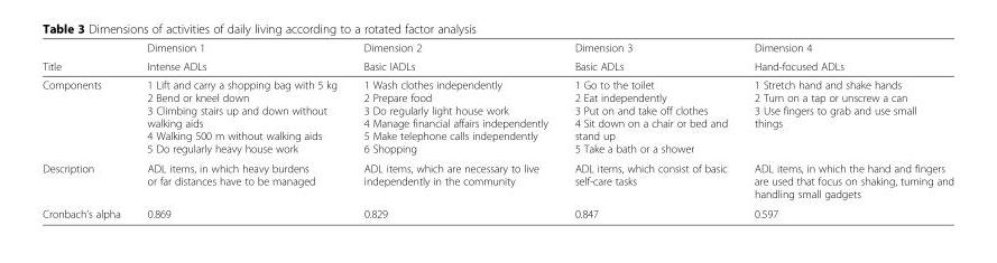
<table><thead><tr><td rowspan="2">Title</td><td rowspan="2">Dimension 1 Intense ADLs</td><td rowspan="2">Dimension 2 Basic IADLs</td><td rowspan="2">Dimension 3 Basic ADLs</td><td rowspan="2">Dimension 4 Hand-focused ADLs</td></tr><tr></tr></thead><tbody><tr><td>Components</td><td>1 Lift and carry a shopping bag with 5 kg 2 Bend or kneel down 3 Climbing stairs up and down without walking aids 4 Walking 500 m without walking aids 5 Do regularly heavy house work</td><td>1 Wash clothes independently 2 Prepare food 3 Do regularly light house work 4 Manage financial affairs independently 5 Make telephone calls independently 6 Shopping</td><td>1 Go to the toilet 2 Eat independently 3 Put on and take off clothes 4 Sit down on a chair or bed and stand up 5 Take a bath or a shower</td><td>1 Stretch hand and shake hands 2 Turn on a tap or unscrew a can 3 Use fingers to grab and use small things</td></tr><tr><td>Description</td><td>ADL items, in which heavy burdens or far distances have to be managed</td><td>ADL items, which are necessary to live independently in the community</td><td>ADL items, which consist of basic self-care tasks</td><td>ADL items, in which the hand and fingers are used that focus on shaking, turning and handling small gadgets</td></tr><tr><td>Cronbach’s alpha</td><td>0.869</td><td>0.829</td><td>0.847</td><td>0.597</td></tr></tbody></table>